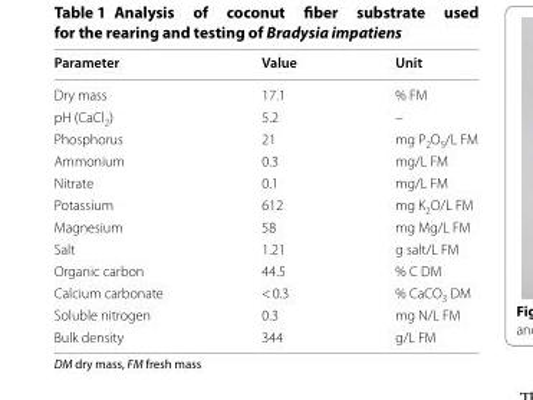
<table><thead><tr><td>Parameter</td><td>Value</td><td>Unit</td></tr></thead><tbody><tr><td>Dry mass</td><td>17.1</td><td>% FM</td></tr><tr><td>pH (CaCl<sub>2</sub>)</td><td>5.2</td><td>–</td></tr><tr><td>Phosphorus</td><td>21</td><td>mg P<sub>2</sub>O<sub>5</sub>/L FM</td></tr><tr><td>Ammonium</td><td>0.3</td><td>mg/L FM</td></tr><tr><td>Nitrate</td><td>0.1</td><td>mg/L FM</td></tr><tr><td>Potassium</td><td>612</td><td>mg K<sub>2</sub>O/L FM</td></tr><tr><td>Magnesium</td><td>58</td><td>mg Mg/L FM</td></tr><tr><td>Salt</td><td>1.21</td><td>g salt/L FM</td></tr><tr><td>Organic carbon</td><td>44.5</td><td>% C DM</td></tr><tr><td>Calcium carbonate</td><td>&lt; 0.3</td><td>% CaCO<sub>3</sub> DM</td></tr><tr><td>Soluble nitrogen</td><td>0.3</td><td>mg N/L FM</td></tr><tr><td>Bulk density</td><td>344</td><td>g/L FM</td></tr></tbody></table>